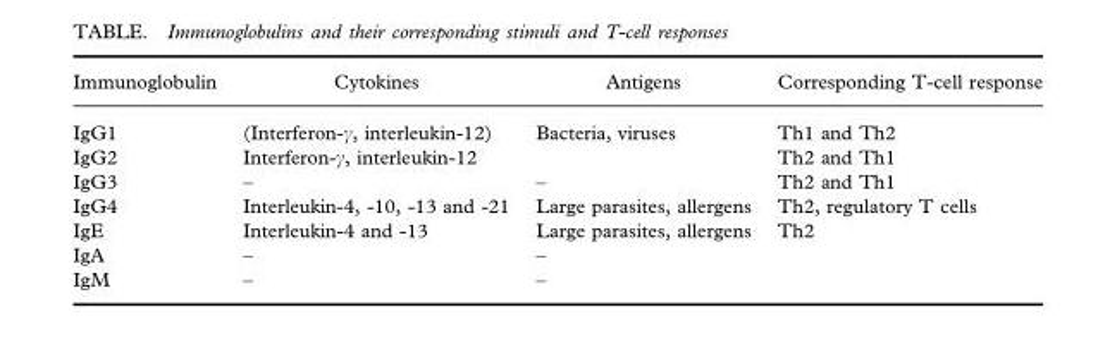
<table><thead><tr><td>Immunoglobulin</td><td>Cytokines</td><td>Antigens</td><td>Corresponding T-cell response</td></tr></thead><tbody><tr><td>IgG1</td><td>(Interferon-γ, interleukin-12)</td><td>Bacteria, viruses</td><td>Th1 and Th2</td></tr><tr><td>IgG2</td><td>Interferon-γ, interleukin-12</td><td></td><td>Th2 and Th1</td></tr><tr><td>IgG3</td><td>–</td><td>–</td><td>Th2 and Th1</td></tr><tr><td>IgG4</td><td>Interleukin-4, -10, -13 and -21</td><td>Large parasites, allergens</td><td>Th2, regulatory T cells</td></tr><tr><td>IgE</td><td>Interleukin-4 and -13</td><td>Large parasites, allergens</td><td>Th2</td></tr><tr><td>IgA</td><td>–</td><td>–</td><td></td></tr><tr><td>IgM</td><td>–</td><td>–</td><td></td></tr></tbody></table>